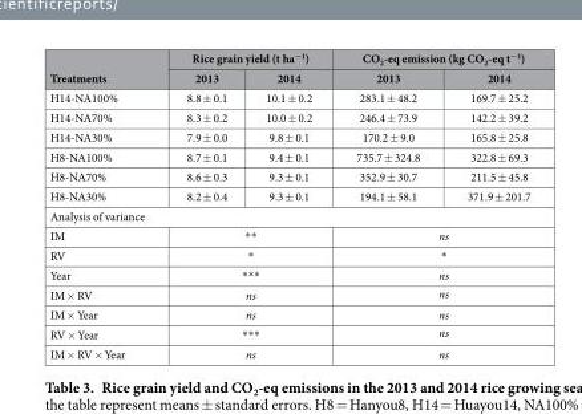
<table><thead><tr><td rowspan="2">Treatments</td><td colspan="2">Rice grain yield (t ha<sup>−1</sup>)</td><td colspan="2">CO<sub>2</sub>-eq emission (kg CO<sub>2</sub>-eq t<sup>−1</sup>)</td></tr><tr><td>2013</td><td>2014</td><td>2013</td><td>2014</td></tr></thead><tbody><tr><td>H14-NA100%</td><td>8.8 ± 0.1</td><td>10.1 ± 0.2</td><td>283.1 ± 48.2</td><td>169.7 ± 25.2</td></tr><tr><td>H14-NA70%</td><td>8.3 ± 0.2</td><td>10.0 ± 0.2</td><td>246.4 ± 73.9</td><td>142.2 ± 39.2</td></tr><tr><td>H14-NA30%</td><td>7.9 ± 0.0</td><td>9.8 ± 0.1</td><td>170.2 ± 9.0</td><td>165.8 ± 25.8</td></tr><tr><td>H8-NA100%</td><td>8.7 ± 0.1</td><td>9.4 ± 0.1</td><td>735.7 ± 324.8</td><td>322.8 ± 69.3</td></tr><tr><td>H8-NA70%</td><td>8.6 ± 0.3</td><td>9.3 ± 0.1</td><td>352.9 ± 30.7</td><td>211.5 ± 45.8</td></tr><tr><td>H8-NA30%</td><td>8.2 ± 0.4</td><td>9.3 ± 0.1</td><td>194.1 ± 58.1</td><td>371.9 ± 201.7</td></tr><tr><td colspan="5">Analysis of variance</td></tr><tr><td>IM</td><td colspan="2">* *</td><td colspan="2">ns</td></tr><tr><td>RV</td><td colspan="2">*</td><td colspan="2">*</td></tr><tr><td>Year</td><td colspan="2">* * *</td><td colspan="2">ns</td></tr><tr><td>IM × RV</td><td colspan="2">ns</td><td colspan="2">ns</td></tr><tr><td>IM × Year</td><td colspan="2">ns</td><td colspan="2">ns</td></tr><tr><td>RV × Year</td><td colspan="2">* * *</td><td colspan="2">ns</td></tr><tr><td>IM × RV × Year</td><td colspan="2">ns</td><td colspan="2">ns</td></tr></tbody></table>